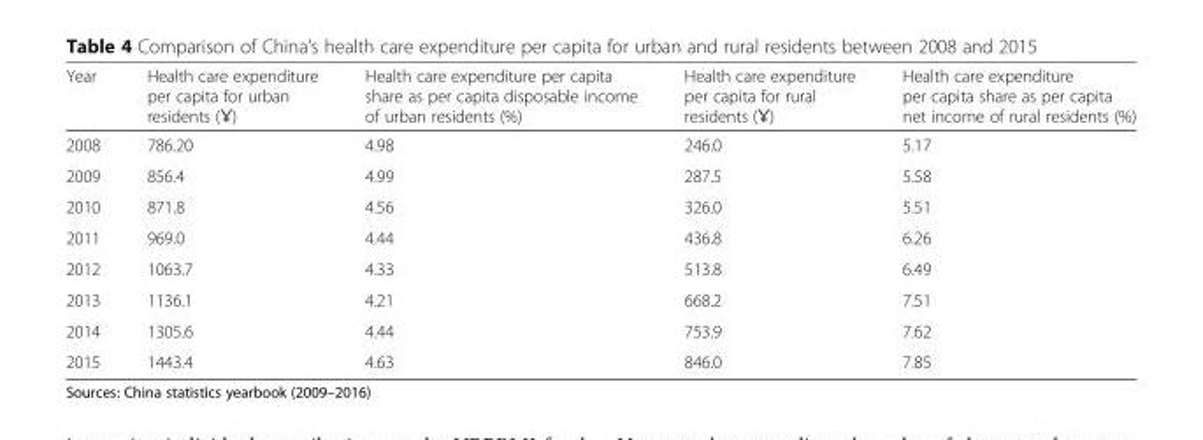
<table><thead><tr><td>Year</td><td>Health care expenditure per capita for urban residents (Ұ)</td><td>Health care expenditure per capita share as per capita disposable income of urban residents (%)</td><td>Health care expenditure per capita for rural residents (Ұ)</td><td>Health care expenditure per capita share as per capita net income of rural residents (%)</td></tr></thead><tbody><tr><td>2008</td><td>786.20</td><td>4.98</td><td>246.0</td><td>5.17</td></tr><tr><td>2009</td><td>856.4</td><td>4.99</td><td>287.5</td><td>5.58</td></tr><tr><td>2010</td><td>871.8</td><td>4.56</td><td>326.0</td><td>5.51</td></tr><tr><td>2011</td><td>969.0</td><td>4.44</td><td>436.8</td><td>6.26</td></tr><tr><td>2012</td><td>1063.7</td><td>4.33</td><td>513.8</td><td>6.49</td></tr><tr><td>2013</td><td>1136.1</td><td>4.21</td><td>668.2</td><td>7.51</td></tr><tr><td>2014</td><td>1305.6</td><td>4.44</td><td>753.9</td><td>7.62</td></tr><tr><td>2015</td><td>1443.4</td><td>4.63</td><td>846.0</td><td>7.85</td></tr></tbody></table>